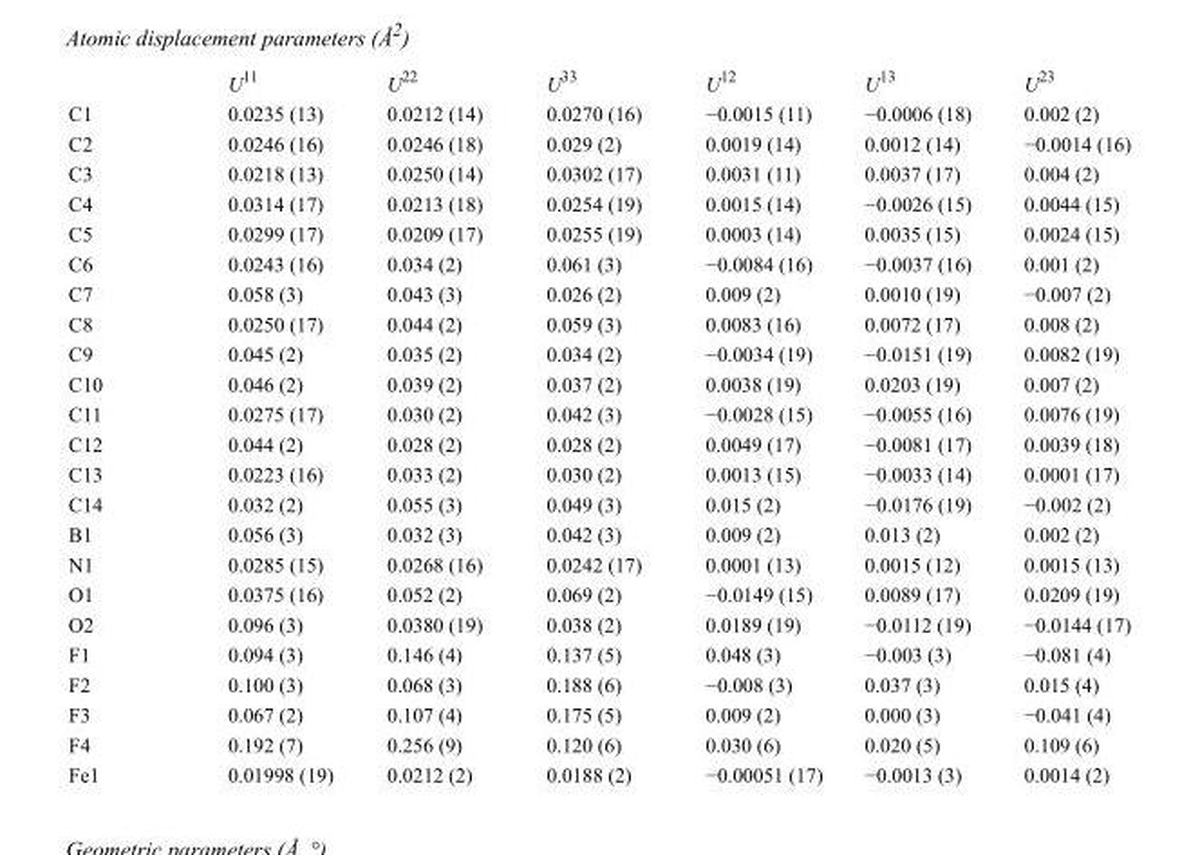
<table><thead><tr><td></td><td>U<sup>11</sup></td><td>U<sup>22</sup></td><td>U<sup>33</sup></td><td>U<sup>12</sup></td><td>U<sup>13</sup></td><td>U<sup>23</sup></td></tr></thead><tbody><tr><td>C1</td><td>0.0235 (13)</td><td>0.0212 (14)</td><td>0.0270 (16)</td><td>−0.0015 (11)</td><td>−0.0006 (18)</td><td>0.002 (2)</td></tr><tr><td>C2</td><td>0.0246 (16)</td><td>0.0246 (18)</td><td>0.029 (2)</td><td>0.0019 (14)</td><td>0.0012 (14)</td><td>−0.0014 (16)</td></tr><tr><td>C3</td><td>0.0218 (13)</td><td>0.0250 (14)</td><td>0.0302 (17)</td><td>0.0031 (11)</td><td>0.0037 (17)</td><td>0.004 (2)</td></tr><tr><td>C4</td><td>0.0314 (17)</td><td>0.0213 (18)</td><td>0.0254 (19)</td><td>0.0015 (14)</td><td>−0.0026 (15)</td><td>0.0044 (15)</td></tr><tr><td>C5</td><td>0.0299 (17)</td><td>0.0209 (17)</td><td>0.0255 (19)</td><td>0.0003 (14)</td><td>0.0035 (15)</td><td>0.0024 (15)</td></tr><tr><td>C6</td><td>0.0243 (16)</td><td>0.034 (2)</td><td>0.061 (3)</td><td>−0.0084 (16)</td><td>−0.0037 (16)</td><td>0.001 (2)</td></tr><tr><td>C7</td><td>0.058 (3)</td><td>0.043 (3)</td><td>0.026 (2)</td><td>0.009 (2)</td><td>0.0010 (19)</td><td>−0.007 (2)</td></tr><tr><td>C8</td><td>0.0250 (17)</td><td>0.044 (2)</td><td>0.059 (3)</td><td>0.0083 (16)</td><td>0.0072 (17)</td><td>0.008 (2)</td></tr><tr><td>C9</td><td>0.045 (2)</td><td>0.035 (2)</td><td>0.034 (2)</td><td>−0.0034 (19)</td><td>−0.0151 (19)</td><td>0.0082 (19)</td></tr><tr><td>C10</td><td>0.046 (2)</td><td>0.039 (2)</td><td>0.037 (2)</td><td>0.0038 (19)</td><td>0.0203 (19)</td><td>0.007 (2)</td></tr><tr><td>C11</td><td>0.0275 (17)</td><td>0.030 (2)</td><td>0.042 (3)</td><td>−0.0028 (15)</td><td>−0.0055 (16)</td><td>0.0076 (19)</td></tr><tr><td>C12</td><td>0.044 (2)</td><td>0.028 (2)</td><td>0.028 (2)</td><td>0.0049 (17)</td><td>−0.0081 (17)</td><td>0.0039 (18)</td></tr><tr><td>C13</td><td>0.0223 (16)</td><td>0.033 (2)</td><td>0.030 (2)</td><td>0.0013 (15)</td><td>−0.0033 (14)</td><td>0.0001 (17)</td></tr><tr><td>C14</td><td>0.032 (2)</td><td>0.055 (3)</td><td>0.049 (3)</td><td>0.015 (2)</td><td>−0.0176 (19)</td><td>−0.002 (2)</td></tr><tr><td>B1</td><td>0.056 (3)</td><td>0.032 (3)</td><td>0.042 (3)</td><td>0.009 (2)</td><td>0.013 (2)</td><td>0.002 (2)</td></tr><tr><td>N1</td><td>0.0285 (15)</td><td>0.0268 (16)</td><td>0.0242 (17)</td><td>0.0001 (13)</td><td>0.0015 (12)</td><td>0.0015 (13)</td></tr><tr><td>O1</td><td>0.0375 (16)</td><td>0.052 (2)</td><td>0.069 (2)</td><td>−0.0149 (15)</td><td>0.0089 (17)</td><td>0.0209 (19)</td></tr><tr><td>O2</td><td>0.096 (3)</td><td>0.0380 (19)</td><td>0.038 (2)</td><td>0.0189 (19)</td><td>−0.0112 (19)</td><td>−0.0144 (17)</td></tr><tr><td>F1</td><td>0.094 (3)</td><td>0.146 (4)</td><td>0.137 (5)</td><td>0.048 (3)</td><td>−0.003 (3)</td><td>−0.081 (4)</td></tr><tr><td>F2</td><td>0.100 (3)</td><td>0.068 (3)</td><td>0.188 (6)</td><td>−0.008 (3)</td><td>0.037 (3)</td><td>0.015 (4)</td></tr><tr><td>F3</td><td>0.067 (2)</td><td>0.107 (4)</td><td>0.175 (5)</td><td>0.009 (2)</td><td>0.000 (3)</td><td>−0.041 (4)</td></tr><tr><td>F4</td><td>0.192 (7)</td><td>0.256 (9)</td><td>0.120 (6)</td><td>0.030 (6)</td><td>0.020 (5)</td><td>0.109 (6)</td></tr><tr><td>Fe1</td><td>0.01998 (19)</td><td>0.0212 (2)</td><td>0.0188 (2)</td><td>−0.00051 (17)</td><td>−0.0013 (3)</td><td>0.0014 (2)</td></tr></tbody></table>